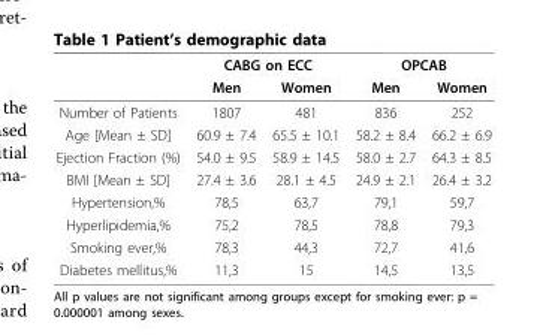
<table><thead><tr><td rowspan="2"></td><td colspan="2">CABG on ECC</td><td colspan="2">OPCAB</td></tr><tr><td>Men</td><td>Women</td><td>Men</td><td>Women</td></tr></thead><tbody><tr><td>Number of Patients</td><td>1807</td><td>481</td><td>836</td><td>252</td></tr><tr><td>Age [Mean ± SD]</td><td>60.9 ± 7.4</td><td>65.5 ± 10.1</td><td>58.2 ± 8.4</td><td>66.2 ± 6.9</td></tr><tr><td>Ejection Fraction (%)</td><td>54.0 ± 9.5</td><td>58.9 ± 14.5</td><td>58.0 ± 2.7</td><td>64.3 ± 8.5</td></tr><tr><td>BMI [Mean ± SD]</td><td>27.4 ± 3.6</td><td>28.1 ± 4.5</td><td>24.9 ± 2.1</td><td>26.4 ± 3.2</td></tr><tr><td>Hypertension,%</td><td>78,5</td><td>63,7</td><td>79,1</td><td>59,7</td></tr><tr><td>Hyperlipidemia,%</td><td>75,2</td><td>78,5</td><td>78,8</td><td>79,3</td></tr><tr><td>Smoking ever,%</td><td>78,3</td><td>44,3</td><td>72,7</td><td>41,6</td></tr><tr><td>Diabetes mellitus,%</td><td>11,3</td><td>15</td><td>14,5</td><td>13,5</td></tr></tbody></table>